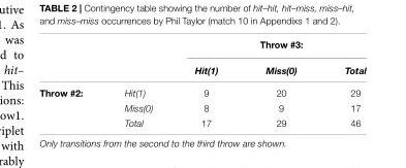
<table><thead><tr><td rowspan="2"></td><td rowspan="2"></td><td colspan="3">Throw #3:</td></tr><tr><td>Hit(1)</td><td>Miss(0)</td><td>Total</td></tr></thead><tbody><tr><td rowspan="3">Throw #2:</td><td>Hit(1)</td><td>9</td><td>20</td><td>29</td></tr><tr><td>Miss(0)</td><td>8</td><td>9</td><td>17</td></tr><tr><td>Total</td><td>17</td><td>29</td><td>46</td></tr></tbody></table>